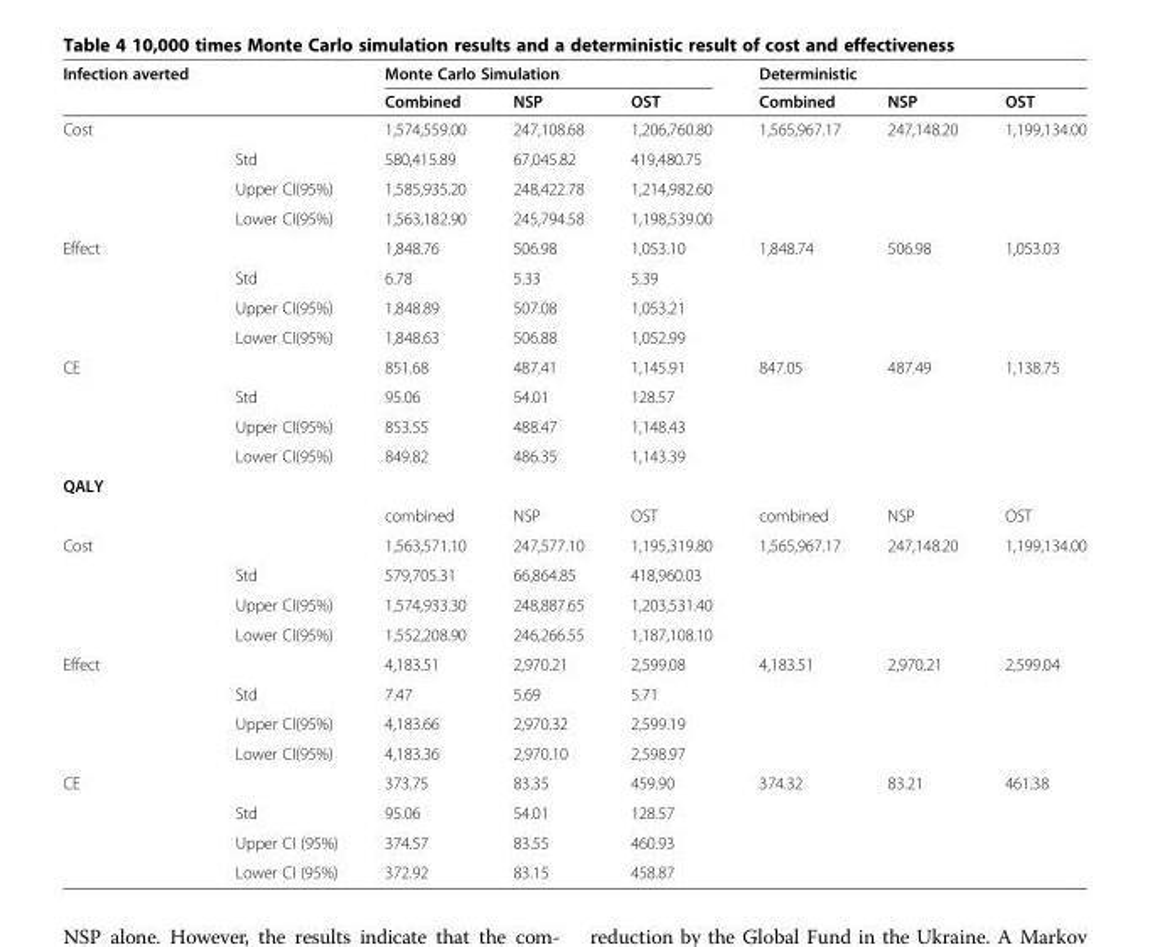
<table><thead><tr><td rowspan="2">Infection averted</td><td rowspan="2"></td><td colspan="3">Monte Carlo Simulation</td><td colspan="3">Deterministic</td></tr><tr><td>Combined</td><td>NSP</td><td>OST</td><td>Combined</td><td>NSP</td><td>OST</td></tr></thead><tbody><tr><td rowspan="4">Cost</td><td></td><td>1,574,559.00</td><td>247,108.68</td><td>1,206,760.80</td><td>1,565,967.17</td><td>247,148.20</td><td>1,199,134.00</td></tr><tr><td>Std</td><td>580,415.89</td><td>67,045.82</td><td>419,480.75</td><td></td><td></td><td></td></tr><tr><td>Upper CI(95%)</td><td>1,585,935.20</td><td>248,422.78</td><td>1,214,982.60</td><td></td><td></td><td></td></tr><tr><td>Lower CI(95%)</td><td>1,563,182.90</td><td>245,794.58</td><td>1,198,539.00</td><td></td><td></td><td></td></tr><tr><td rowspan="4">Effect</td><td></td><td>1,848.76</td><td>506.98</td><td>1,053.10</td><td>1,848.74</td><td>506.98</td><td>1,053.03</td></tr><tr><td>Std</td><td>6.78</td><td>5.33</td><td>5.39</td><td></td><td></td><td></td></tr><tr><td>Upper CI(95%)</td><td>1,848.89</td><td>507.08</td><td>1,053.21</td><td></td><td></td><td></td></tr><tr><td>Lower CI(95%)</td><td>1,848.63</td><td>506.88</td><td>1,052.99</td><td></td><td></td><td></td></tr><tr><td rowspan="4">CE</td><td></td><td>851.68</td><td>487.41</td><td>1,145.91</td><td>847.05</td><td>487.49</td><td>1,138.75</td></tr><tr><td>Std</td><td>95.06</td><td>54.01</td><td>128.57</td><td></td><td></td><td></td></tr><tr><td>Upper CI(95%)</td><td>853.55</td><td>488.47</td><td>1,148.43</td><td></td><td></td><td></td></tr><tr><td>Lower CI(95%)</td><td>849.82</td><td>486.35</td><td>1,143.39</td><td></td><td></td><td></td></tr><tr><td colspan="8">QALY</td></tr><tr><td></td><td></td><td>combined</td><td>NSP</td><td>OST</td><td>combined</td><td>NSP</td><td>OST</td></tr><tr><td rowspan="4">Cost</td><td></td><td>1,563,571.10</td><td>247,577.10</td><td>1,195,319.80</td><td>1,565,967.17</td><td>247,148.20</td><td>1,199,134.00</td></tr><tr><td>Std</td><td>579,705.31</td><td>66,864.85</td><td>418,960.03</td><td></td><td></td><td></td></tr><tr><td>Upper CI(95%)</td><td>1,574,933.30</td><td>248,887.65</td><td>1,203,531.40</td><td></td><td></td><td></td></tr><tr><td>Lower CI(95%)</td><td>1,552,208.90</td><td>246,266.55</td><td>1,187,108.10</td><td></td><td></td><td></td></tr><tr><td rowspan="4">Effect</td><td></td><td>4,183.51</td><td>2,970.21</td><td>2,599.08</td><td>4,183.51</td><td>2,970.21</td><td>2,599.04</td></tr><tr><td>Std</td><td>7.47</td><td>5.69</td><td>5.71</td><td></td><td></td><td></td></tr><tr><td>Upper CI(95%)</td><td>4,183.66</td><td>2,970.32</td><td>2,599.19</td><td></td><td></td><td></td></tr><tr><td>Lower CI(95%)</td><td>4,183.36</td><td>2,970.10</td><td>2,598.97</td><td></td><td></td><td></td></tr><tr><td rowspan="4">CE</td><td></td><td>373.75</td><td>83.35</td><td>459.90</td><td>374.32</td><td>83.21</td><td>461.38</td></tr><tr><td>Std</td><td>95.06</td><td>54.01</td><td>128.57</td><td></td><td></td><td></td></tr><tr><td>Upper CI (95%)</td><td>374.57</td><td>83.55</td><td>460.93</td><td></td><td></td><td></td></tr><tr><td>Lower CI (95%)</td><td>372.92</td><td>83.15</td><td>458.87</td><td></td><td></td><td></td></tr></tbody></table>